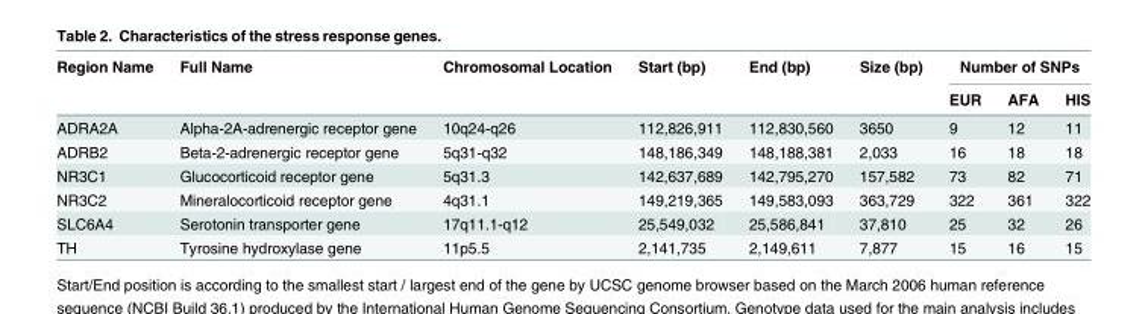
<table><thead><tr><td rowspan="2">Region Name</td><td rowspan="2">Full Name</td><td rowspan="2">Chromosomal Location</td><td rowspan="2">Start (bp)</td><td rowspan="2">End (bp)</td><td rowspan="2">Size (bp)</td><td colspan="3">Number of SNPs</td></tr><tr><td>EUR</td><td>AFA</td><td>HIS</td></tr></thead><tbody><tr><td>ADRA2A</td><td>Alpha-2A-adrenergic receptor gene</td><td>10q24-q26</td><td>112,826,911</td><td>112,830,560</td><td>3650</td><td>9</td><td>12</td><td>11</td></tr><tr><td>ADRB2</td><td>Beta-2-adrenergic receptor gene</td><td>5q31-q32</td><td>148,186,349</td><td>148,188,381</td><td>2,033</td><td>16</td><td>18</td><td>18</td></tr><tr><td>NR3C1</td><td>Glucocorticoid receptor gene</td><td>5q31.3</td><td>142,637,689</td><td>142,795,270</td><td>157,582</td><td>73</td><td>82</td><td>71</td></tr><tr><td>NR3C2</td><td>Mineralocorticoid receptor gene</td><td>4q31.1</td><td>149,219,365</td><td>149,583,093</td><td>363,729</td><td>322</td><td>361</td><td>322</td></tr><tr><td>SLC6A4</td><td>Serotonin transporter gene</td><td>17q11.1-q12</td><td>25,549,032</td><td>25,586,841</td><td>37,810</td><td>25</td><td>32</td><td>26</td></tr><tr><td>TH</td><td>Tyrosine hydroxylase gene</td><td>11p5.5</td><td>2,141,735</td><td>2,149,611</td><td>7,877</td><td>15</td><td>16</td><td>15</td></tr></tbody></table>